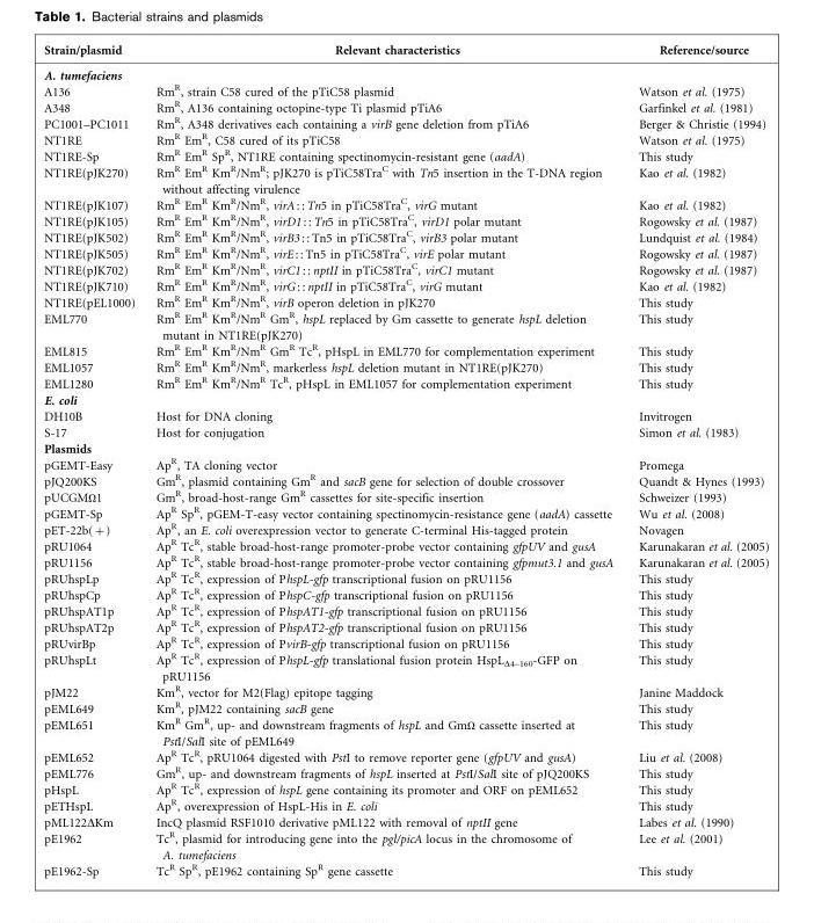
<table><thead><tr><td>Strain/plasmid</td><td>Relevant characteristics</td><td>Reference/source</td></tr></thead><tbody><tr><td colspan="3">A. tumefaciens</td></tr><tr><td>A136</td><td>Rm<sup>R</sup>, strain C58 cured of the pTiC58 plasmid</td><td>Watson et al. (1975)</td></tr><tr><td>A348</td><td>Rm<sup>R</sup>, A136 containing octopine-type Ti plasmid pTiA6</td><td>Garfinkel et al. (1981)</td></tr><tr><td>PC1001–PC1011</td><td>Rm<sup>R</sup>, A348 derivatives each containing a virB gene deletion from pTiA6</td><td>Berger &amp; Christie (1994)</td></tr><tr><td>NT1RE</td><td>Rm<sup>R</sup> Em<sup>R</sup>, C58 cured of its pTiC58</td><td>Watson et al. (1975)</td></tr><tr><td>NT1RE-Sp</td><td>Rm<sup>R</sup> Em<sup>R</sup> Sp<sup>R</sup>, NT1RE containing spectinomycin-resistant gene (aadA)</td><td>This study</td></tr><tr><td>NT1RE(pJK270)</td><td>Rm<sup>R</sup> Em<sup>R</sup> Km<sup>R</sup>/Nm<sup>R</sup>; pJK270 is pTiC58Tra<sup>C</sup> with Tn5 insertion in the T-DNA region without affecting virulence</td><td>Kao et al. (1982)</td></tr><tr><td>NT1RE(pJK107)</td><td>Rm<sup>R</sup> Em<sup>R</sup> Km<sup>R</sup>/Nm<sup>R</sup>, virA : : Tn5 in pTiC58Tra<sup>C</sup>, virG mutant</td><td>Kao et al. (1982)</td></tr><tr><td>NT1RE(pJK105)</td><td>Rm<sup>R</sup> Em<sup>R</sup> Km<sup>R</sup>/Nm<sup>R</sup>, virD1 : : Tn5 in pTiC58Tra<sup>C</sup>, virD1 polar mutant</td><td>Rogowsky et al. (1987)</td></tr><tr><td>NT1RE(pJK502)</td><td>Rm<sup>R</sup> Em<sup>R</sup> Km<sup>R</sup>/Nm<sup>R</sup>, virB3 : : Tn5 in pTiC58Tra<sup>C</sup>, virB3 polar mutant</td><td>Lundquist et al. (1984)</td></tr><tr><td>NT1RE(pJK505)</td><td>Rm<sup>R</sup> Em<sup>R</sup> Km<sup>R</sup>/Nm<sup>R</sup>, virE : : Tn5 in pTiC58Tra<sup>C</sup>, virE polar mutant</td><td>Rogowsky et al. (1987)</td></tr><tr><td>NT1RE(pJK702)</td><td>Rm<sup>R</sup> Em<sup>R</sup> Km<sup>R</sup>/Nm<sup>R</sup>, virC1 : : nptII in pTiC58Tra<sup>C</sup>, virC1 mutant</td><td>Rogowsky et al. (1987)</td></tr><tr><td>NT1RE(pJK710)</td><td>Rm<sup>R</sup> Em<sup>R</sup> Km<sup>R</sup>/Nm<sup>R</sup>, virG : : nptII in pTiC58Tra<sup>C</sup>, virG mutant</td><td>Kao et al. (1982)</td></tr><tr><td>NT1RE(pEL1000)</td><td>Rm<sup>R</sup> Em<sup>R</sup> Km<sup>R</sup>/Nm<sup>R</sup>, virB operon deletion in pJK270</td><td>This study</td></tr><tr><td>EML770</td><td>Rm<sup>R</sup> Em<sup>R</sup> Km<sup>R</sup>/Nm<sup>R</sup> Gm<sup>R</sup>, hspL replaced by Gm cassette to generate hspL deletion mutant in NT1RE(pJK270)</td><td>This study</td></tr><tr><td>EML815</td><td>Rm<sup>R</sup> Em<sup>R</sup> Km<sup>R</sup>/Nm<sup>R</sup> Gm<sup>R</sup> Tc<sup>R</sup>, pHspL in EML770 for complementation experiment</td><td>This study</td></tr><tr><td>EML1057</td><td>Rm<sup>R</sup> Em<sup>R</sup> Km<sup>R</sup>/Nm<sup>R</sup>, markerless hspL deletion mutant in NT1RE(pJK270)</td><td>This study</td></tr><tr><td>EML1280</td><td>Rm<sup>R</sup> Em<sup>R</sup> Km<sup>R</sup>/Nm<sup>R</sup> Tc<sup>R</sup>, pHspL in EML1057 for complementation experiment</td><td>This study</td></tr><tr><td colspan="3">E. coli</td></tr><tr><td>DH10B</td><td>Host for DNA cloning</td><td>Invitrogen</td></tr><tr><td>S-17</td><td>Host for conjugation</td><td>Simon et al. (1983)</td></tr><tr><td colspan="3">Plasmids</td></tr><tr><td>pGEMT-Easy</td><td>Ap<sup>R</sup>, TA cloning vector</td><td>Promega</td></tr><tr><td>pJQ200KS</td><td>Gm<sup>R</sup>, plasmid containing Gm<sup>R</sup> and sacB gene for selection of double crossover</td><td>Quandt &amp; Hynes (1993)</td></tr><tr><td>pUCGMV1</td><td>Gm<sup>R</sup>, broad-host-range Gm<sup>R</sup> cassettes for site-specific insertion</td><td>Schweizer (1993)</td></tr><tr><td>pGEMT-Sp</td><td>Ap<sup>R</sup> Sp<sup>R</sup>, pGEM-T-easy vector containing spectinomycin-resistance gene (aadA) cassette</td><td>Wu et al. (2008)</td></tr><tr><td>pET-22b(+)</td><td>Ap<sup>R</sup>, an E. coli overexpression vector to generate C-terminal His-tagged protein</td><td>Novagen</td></tr><tr><td>pRU1064</td><td>Ap<sup>R</sup> Tc<sup>R</sup>, stable broad-host-range promoter-probe vector containing gfpUV and gusA</td><td>Karunakaran et al. (2005)</td></tr><tr><td>pRU1156</td><td>Ap<sup>R</sup> Tc<sup>R</sup>, stable broad-host-range promoter-probe vector containing gfpmut3.1 and gusA</td><td>Karunakaran et al. (2005)</td></tr><tr><td>pRUhspLp</td><td>Ap<sup>R</sup> Tc<sup>R</sup>, expression of PhspL-gfp transcriptional fusion on pRU1156</td><td>This study</td></tr><tr><td>pRUhspCp</td><td>Ap<sup>R</sup> Tc<sup>R</sup>, expression of PhspC-gfp transcriptional fusion on pRU1156</td><td>This study</td></tr><tr><td>pRUhspAT1p</td><td>Ap<sup>R</sup> Tc<sup>R</sup>, expression of PhspAT1-gfp transcriptional fusion on pRU1156</td><td>This study</td></tr><tr><td>pRUhspAT2p</td><td>Ap<sup>R</sup> Tc<sup>R</sup>, expression of PhspAT2-gfp transcriptional fusion on pRU1156</td><td>This study</td></tr><tr><td>pRUvirBp</td><td>Ap<sup>R</sup> Tc<sup>R</sup>, expression of PvirB-gfp transcriptional fusion on pRU1156</td><td>This study</td></tr><tr><td>pRUhspLt</td><td>Ap<sup>R</sup> Tc<sup>R</sup>, expression of PhspL-gfp translational fusion protein HspL<sub>Δ4–160</sub>-GFP on pRU1156</td><td>This study</td></tr><tr><td>pJM22</td><td>Km<sup>R</sup>, vector for M2(Flag) epitope tagging</td><td>Janine Maddock</td></tr><tr><td>pEML649</td><td>Km<sup>R</sup>, pJM22 containing sacB gene</td><td>This study</td></tr><tr><td>pEML651</td><td>KmR GmR, up- and downstream fragments of hspL and GmV cassette inserted at PstI/SalI site of pEML649</td><td>This study</td></tr><tr><td>pEML652</td><td>Ap<sup>R</sup> Tc<sup>R</sup>, pRU1064 digested with PstI to remove reporter gene (gfpUV and gusA)</td><td>Liu et al. (2008)</td></tr><tr><td>pEML776</td><td>Gm<sup>R</sup>, up- and downstream fragments of hspL inserted at PstI/SalI site of pJQ200KS</td><td>This study</td></tr><tr><td>pHspL</td><td>Ap<sup>R</sup> Tc<sup>R</sup>, expression of hspL gene containing its promoter and ORF on pEML652</td><td>This study</td></tr><tr><td>pETHspL</td><td>Ap<sup>R</sup>, overexpression of HspL-His in E. coli</td><td>This study</td></tr><tr><td>pML122ΔKm</td><td>IncQ plasmid RSF1010 derivative pML122 with removal of nptII gene</td><td>Labes et al. (1990)</td></tr><tr><td>pE1962</td><td>Tc<sup>R</sup>, plasmid for introducing gene into the pgl/picA locus in the chromosome of A. tumefaciens</td><td>Lee et al. (2001)</td></tr><tr><td>pE1962-Sp</td><td>Tc<sup>R</sup> Sp<sup>R</sup>, pE1962 containing Sp<sup>R</sup> gene cassette</td><td>This study</td></tr></tbody></table>